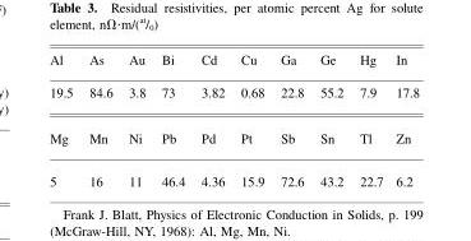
<table><thead><tr><td>Al</td><td>As</td><td>Au</td><td>Bi</td><td>Cd</td><td>Cu</td><td>Ga</td><td>Ge</td><td>Hg</td><td>In</td></tr></thead><tbody><tr><td>19.5</td><td>84.6</td><td>3.8</td><td>73</td><td>3.82</td><td>0.68</td><td>22.8</td><td>55.2</td><td>7.9</td><td>17.8</td></tr><tr><td>Mg</td><td>Mn</td><td>Ni</td><td>Pb</td><td>Pd</td><td>Pt</td><td>Sb</td><td>Sn</td><td>Tl</td><td>Zn</td></tr><tr><td>5</td><td>16</td><td>11</td><td>46.4</td><td>4.36</td><td>15.9</td><td>72.6</td><td>43.2</td><td>22.7</td><td>6.2</td></tr></tbody></table>